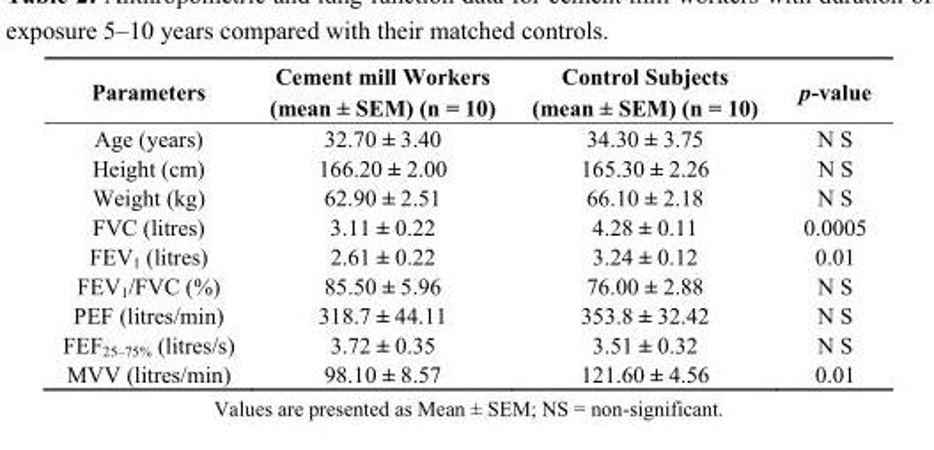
<table><thead><tr><td>Parameters</td><td>Cement mill Workers (mean ± SEM) (n = 10)</td><td>Control Subjects (mean ± SEM) (n = 10)</td><td>p-value</td></tr></thead><tbody><tr><td>Age (years)</td><td>32.70 ± 3.40</td><td>34.30 ± 3.75</td><td>N S</td></tr><tr><td>Height (cm)</td><td>166.20 ± 2.00</td><td>165.30 ± 2.26</td><td>N S</td></tr><tr><td>Weight (kg)</td><td>62.90 ± 2.51</td><td>66.10 ± 2.18</td><td>N S</td></tr><tr><td>FVC (litres)</td><td>3.11 ± 0.22</td><td>4.28 ± 0.11</td><td>0.0005</td></tr><tr><td>FEV<sub>1</sub> (litres)</td><td>2.61 ± 0.22</td><td>3.24 ± 0.12</td><td>0.01</td></tr><tr><td>FEV<sub>1</sub>/FVC (%)</td><td>85.50 ± 5.96</td><td>76.00 ± 2.88</td><td>N S</td></tr><tr><td>PEF (litres/min)</td><td>318.7 ± 44.11</td><td>353.8 ± 32.42</td><td>N S</td></tr><tr><td>FEF<sub>25–75%</sub> (litres/s)</td><td>3.72 ± 0.35</td><td>3.51 ± 0.32</td><td>N S</td></tr><tr><td>MVV (litres/min)</td><td>98.10 ± 8.57</td><td>121.60 ± 4.56</td><td>0.01</td></tr></tbody></table>